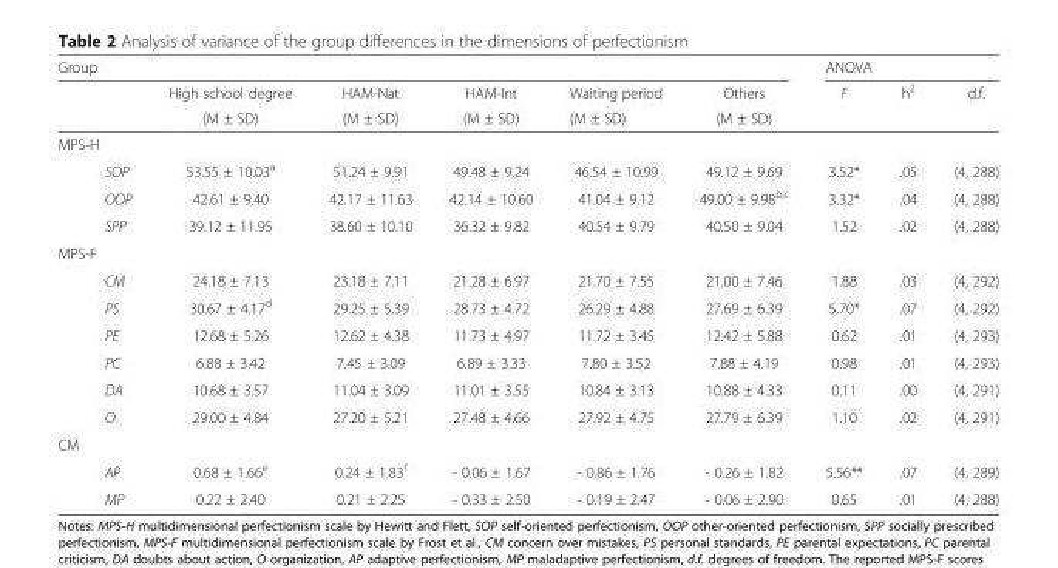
<table><thead><tr><td colspan="6">Group</td><td colspan="3">ANOVA</td></tr><tr><td rowspan="2"></td><td rowspan="2">High school degree (M ± SD)</td><td rowspan="2">HAM-Nat (M ± SD)</td><td rowspan="2">HAM-Int (M ± SD)</td><td rowspan="2">Waiting period (M ± SD)</td><td rowspan="2">Others (M ± SD)</td><td rowspan="2">F</td><td rowspan="2">h<sup>2</sup></td><td rowspan="2">d.f.</td></tr><tr></tr></thead><tbody><tr><td colspan="9">MPS-H</td></tr><tr><td>SOP</td><td>53.55 ± 10.03<sup>a</sup></td><td>51.24 ± 9.91</td><td>49.48 ± 9.24</td><td>46.54 ± 10.99</td><td>49.12 ± 9.69</td><td>3.52*</td><td>.05</td><td>(4, 288)</td></tr><tr><td>OOP</td><td>42.61 ± 9.40</td><td>42.17 ± 11.63</td><td>42.14 ± 10.60</td><td>41.04 ± 9.12</td><td>49.00 ± 9.98<sup>b,c</sup></td><td>3.32*</td><td>.04</td><td>(4, 288)</td></tr><tr><td>SPP</td><td>39.12 ± 11.95</td><td>38.60 ± 10.10</td><td>36.32 ± 9.82</td><td>40.54 ± 9.79</td><td>40.50 ± 9.04</td><td>1.52</td><td>.02</td><td>(4, 288)</td></tr><tr><td colspan="9">MPS-F</td></tr><tr><td>CM</td><td>24.18 ± 7.13</td><td>23.18 ± 7.11</td><td>21.28 ± 6.97</td><td>21.70 ± 7.55</td><td>21.00 ± 7.46</td><td>1.88</td><td>.03</td><td>(4, 292)</td></tr><tr><td>PS</td><td>30.67 ± 4.17<sup>d</sup></td><td>29.25 ± 5.39</td><td>28.73 ± 4.72</td><td>26.29 ± 4.88</td><td>27.69 ± 6.39</td><td>5.70*</td><td>.07</td><td>(4, 292)</td></tr><tr><td>PE</td><td>12.68 ± 5.26</td><td>12.62 ± 4.38</td><td>11.73 ± 4.97</td><td>11.72 ± 3.45</td><td>12.42 ± 5.88</td><td>0.62</td><td>.01</td><td>(4, 293)</td></tr><tr><td>PC</td><td>6.88 ± 3.42</td><td>7.45 ± 3.09</td><td>6.89 ± 3.33</td><td>7.80 ± 3.52</td><td>7.88 ± 4.19</td><td>0.98</td><td>.01</td><td>(4, 293)</td></tr><tr><td>DA</td><td>10.68 ± 3.57</td><td>11.04 ± 3.09</td><td>11.01 ± 3.55</td><td>10.84 ± 3.13</td><td>10.88 ± 4.33</td><td>0.11</td><td>.00</td><td>(4, 291)</td></tr><tr><td>O</td><td>29.00 ± 4.84</td><td>27.20 ± 5.21</td><td>27.48 ± 4.66</td><td>27.92 ± 4.75</td><td>27.79 ± 6.39</td><td>1.10</td><td>.02</td><td>(4, 291)</td></tr><tr><td colspan="9">CM</td></tr><tr><td>AP</td><td>0.68 ± 1.66<sup>e</sup></td><td>0.24 ± 1.83<sup>f</sup></td><td>- 0.06 ± 1.67</td><td>- 0.86 ± 1.76</td><td>- 0.26 ± 1.82</td><td>5.56**</td><td>.07</td><td>(4, 289)</td></tr><tr><td>MP</td><td>0.22 ± 2.40</td><td>0.21 ± 2.25</td><td>- 0.33 ± 2.50</td><td>- 0.19 ± 2.47</td><td>- 0.06 ± 2.90</td><td>0.65</td><td>.01</td><td>(4, 288)</td></tr></tbody></table>